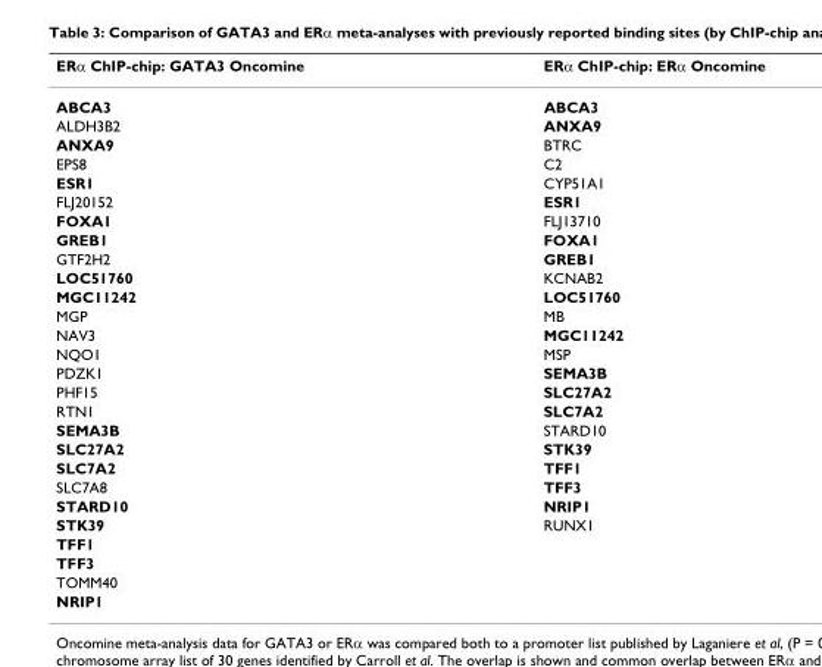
<table><thead><tr><td>ERα ChIP-chip: GATA3 Oncomine</td><td>ERα ChIP-chip: ERα Oncomine</td></tr></thead><tbody><tr><td>ABCA3</td><td>ABCA3</td></tr><tr><td>ALDH3B2</td><td>ANXA9</td></tr><tr><td>ANXA9</td><td>BTRC</td></tr><tr><td>EPS8</td><td>C2</td></tr><tr><td>ESR1</td><td>CYP51A1</td></tr><tr><td>FLJ20152</td><td>ESR1</td></tr><tr><td>FOXA1</td><td>FLJ13710</td></tr><tr><td>GREB1</td><td>FOXA1</td></tr><tr><td>GTF2H2</td><td>GREB1</td></tr><tr><td>LOC51760</td><td>KCNAB2</td></tr><tr><td>MGC11242</td><td>LOC51760</td></tr><tr><td>MGP</td><td>MB</td></tr><tr><td>NAV3</td><td>MGC11242</td></tr><tr><td>NQO1</td><td>MSP</td></tr><tr><td>PDZK1</td><td>SEMA3B</td></tr><tr><td>PHF15</td><td>SLC27A2</td></tr><tr><td>RTN1</td><td>SLC7A2</td></tr><tr><td>SEMA3B</td><td>STARD10</td></tr><tr><td>SLC27A2</td><td>STK39</td></tr><tr><td>SLC7A2</td><td>TFF1</td></tr><tr><td>SLC7A8</td><td>TFF3</td></tr><tr><td>STARD10</td><td>NRIP1</td></tr><tr><td>STK39</td><td>RUNX1</td></tr><tr><td colspan="2">TFF1</td></tr><tr><td colspan="2">TFF3</td></tr><tr><td colspan="2">TOMM40</td></tr><tr><td>NRIP1</td><td></td></tr></tbody></table>